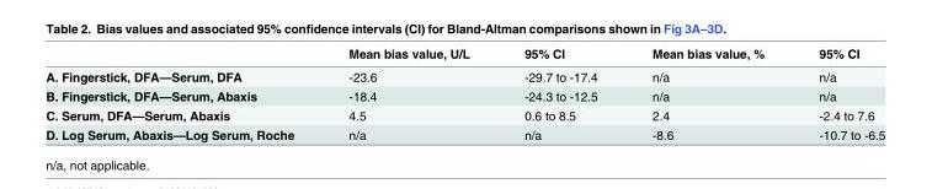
<table><thead><tr><td></td><td>Mean bias value, U/L</td><td>95% CI</td><td>Mean bias value, %</td><td>95% CI</td></tr></thead><tbody><tr><td>A. Fingerstick, DFA—Serum, DFA</td><td>-23.6</td><td>-29.7 to -17.4</td><td>n/a</td><td>n/a</td></tr><tr><td>B. Fingerstick, DFA—Serum, Abaxis</td><td>-18.4</td><td>-24.3 to -12.5</td><td>n/a</td><td>n/a</td></tr><tr><td>C. Serum, DFA—Serum, Abaxis</td><td>4.5</td><td>0.6 to 8.5</td><td>2.4</td><td>-2.4 to 7.6</td></tr><tr><td>D. Log Serum, Abaxis—Log Serum, Roche</td><td>n/a</td><td>n/a</td><td>-8.6</td><td>-10.7 to -6.5</td></tr></tbody></table>